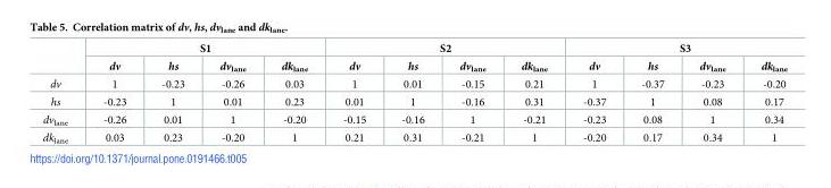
<table><thead><tr><td rowspan="2"></td><td colspan="4">S1</td><td colspan="4">S2</td><td colspan="4">S3</td></tr><tr><td>dv</td><td>hs</td><td>dv<sub>lane</sub></td><td>dk<sub>lane</sub></td><td>dv</td><td>hs</td><td>dv<sub>lane</sub></td><td>dk<sub>lane</sub></td><td>dv</td><td>hs</td><td>dv<sub>lane</sub></td><td>dk<sub>lane</sub></td></tr></thead><tbody><tr><td>dv</td><td>1</td><td>-0.23</td><td>-0.26</td><td>0.03</td><td>1</td><td>0.01</td><td>-0.15</td><td>0.21</td><td>1</td><td>-0.37</td><td>-0.23</td><td>-0.20</td></tr><tr><td>hs</td><td>-0.23</td><td>1</td><td>0.01</td><td>0.23</td><td>0.01</td><td>1</td><td>-0.16</td><td>0.31</td><td>-0.37</td><td>1</td><td>0.08</td><td>0.17</td></tr><tr><td>dv<sub>lane</sub></td><td>-0.26</td><td>0.01</td><td>1</td><td>-0.20</td><td>-0.15</td><td>-0.16</td><td>1</td><td>-0.21</td><td>-0.23</td><td>0.08</td><td>1</td><td>0.34</td></tr><tr><td>dk<sub>lane</sub></td><td>0.03</td><td>0.23</td><td>-0.20</td><td>1</td><td>0.21</td><td>0.31</td><td>-0.21</td><td>1</td><td>-0.20</td><td>0.17</td><td>0.34</td><td>1</td></tr></tbody></table>